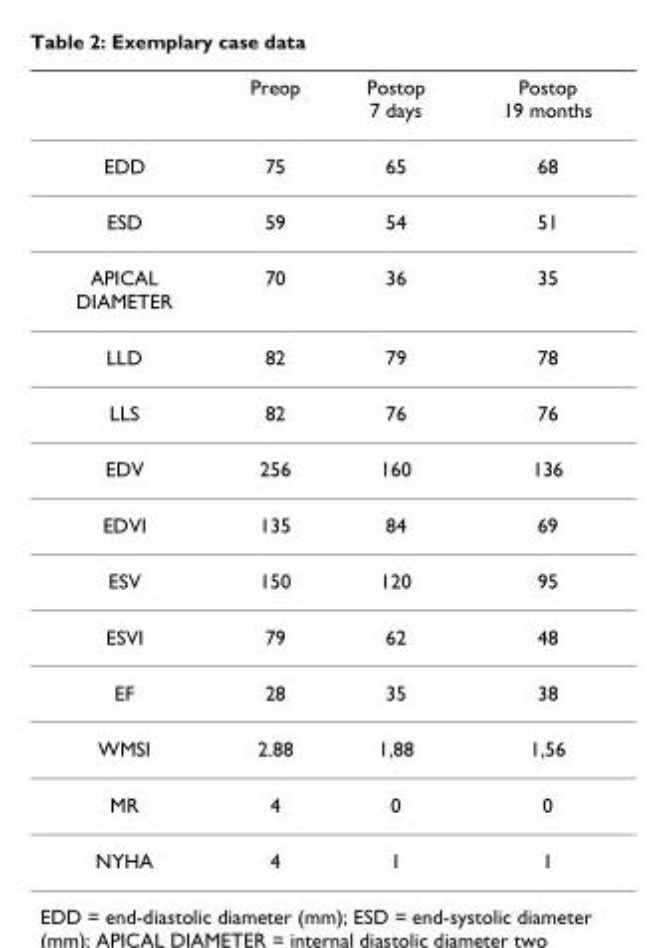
<table><thead><tr><td></td><td>Preop</td><td>Postop 7 days</td><td>Postop 19 months</td></tr></thead><tbody><tr><td>EDD</td><td>75</td><td>65</td><td>68</td></tr><tr><td>ESD</td><td>59</td><td>54</td><td>51</td></tr><tr><td>APICAL DIAMETER</td><td>70</td><td>36</td><td>35</td></tr><tr><td>LLD</td><td>82</td><td>79</td><td>78</td></tr><tr><td>LLS</td><td>82</td><td>76</td><td>76</td></tr><tr><td>EDV</td><td>256</td><td>160</td><td>136</td></tr><tr><td>EDVI</td><td>135</td><td>84</td><td>69</td></tr><tr><td>ESV</td><td>150</td><td>120</td><td>95</td></tr><tr><td>ESVI</td><td>79</td><td>62</td><td>48</td></tr><tr><td>EF</td><td>28</td><td>35</td><td>38</td></tr><tr><td>WMSI</td><td>2.88</td><td>1,88</td><td>1,56</td></tr><tr><td>MR</td><td>4</td><td>0</td><td>0</td></tr><tr><td>NYHA</td><td>4</td><td>1</td><td>1</td></tr></tbody></table>